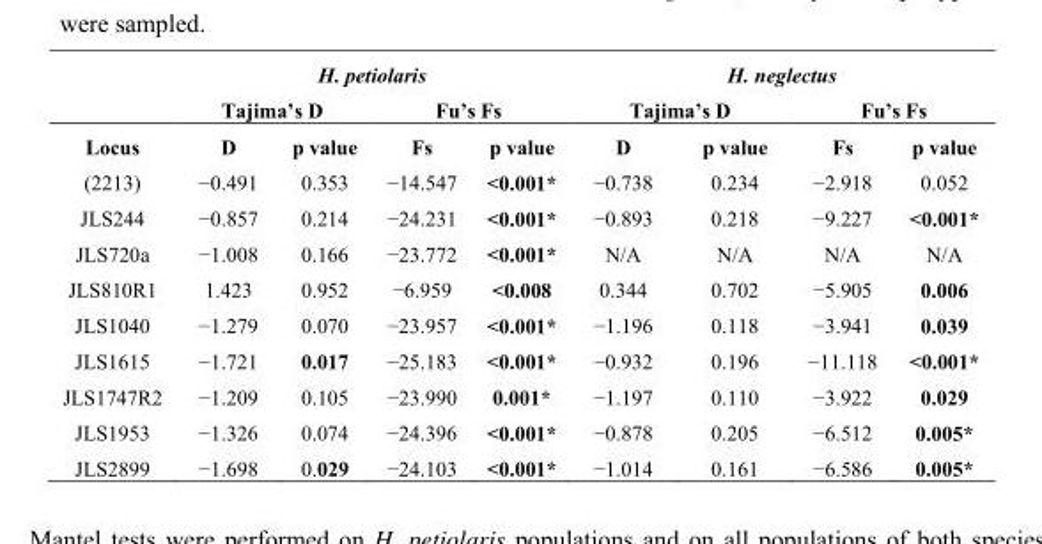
<table><thead><tr><td rowspan="3">Locus</td><td colspan="4">H. petiolaris</td><td colspan="4">H. neglectus</td></tr><tr><td colspan="2">Tajima’s D</td><td colspan="2">Fu’s Fs</td><td colspan="2">Tajima’s D</td><td colspan="2">Fu’s Fs</td></tr><tr><td>D</td><td>p value</td><td>Fs</td><td>p value</td><td>D</td><td>p value</td><td>Fs</td><td>p value</td></tr></thead><tbody><tr><td>(2213)</td><td>−0.491</td><td>0.353</td><td>−14.547</td><td>&lt;0.001*</td><td>−0.738</td><td>0.234</td><td>−2.918</td><td>0.052</td></tr><tr><td>JLS244</td><td>−0.857</td><td>0.214</td><td>−24.231</td><td>&lt;0.001*</td><td>−0.893</td><td>0.218</td><td>−9.227</td><td>&lt;0.001*</td></tr><tr><td>JLS720a</td><td>−1.008</td><td>0.166</td><td>−23.772</td><td>&lt;0.001*</td><td>N/A</td><td>N/A</td><td>N/A</td><td>N/A</td></tr><tr><td>JLS810R1</td><td>1.423</td><td>0.952</td><td>−6.959</td><td>&lt;0.008</td><td>0.344</td><td>0.702</td><td>−5.905</td><td>0.006</td></tr><tr><td>JLS1040</td><td>−1.279</td><td>0.070</td><td>−23.957</td><td>&lt;0.001*</td><td>−1.196</td><td>0.118</td><td>−3.941</td><td>0.039</td></tr><tr><td>JLS1615</td><td>−1.721</td><td>0.017</td><td>−25.183</td><td>&lt;0.001*</td><td>−0.932</td><td>0.196</td><td>−11.118</td><td>&lt;0.001*</td></tr><tr><td>JLS1747R2</td><td>−1.209</td><td>0.105</td><td>−23.990</td><td>0.001*</td><td>−1.197</td><td>0.110</td><td>−3.922</td><td>0.029</td></tr><tr><td>JLS1953</td><td>−1.326</td><td>0.074</td><td>−24.396</td><td>&lt;0.001*</td><td>−0.878</td><td>0.205</td><td>−6.512</td><td>0.005*</td></tr><tr><td>JLS2899</td><td>−1.698</td><td>0.029</td><td>−24.103</td><td>&lt;0.001*</td><td>−1.014</td><td>0.161</td><td>−6.586</td><td>0.005*</td></tr></tbody></table>